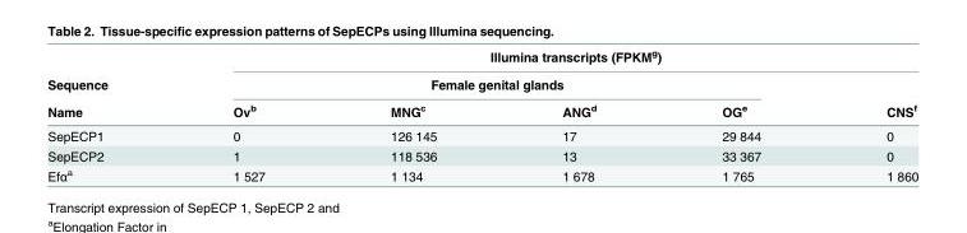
<table><thead><tr><td rowspan="3">Sequence Name</td><td colspan="5">Illumina transcripts (FPKM<sup>g</sup>)</td></tr><tr><td colspan="4">Female genital glands</td><td rowspan="2">CNS<sup>f</sup></td></tr><tr><td>Ov<sup>b</sup></td><td>MNG<sup>c</sup></td><td>ANG<sup>d</sup></td><td>OG<sup>e</sup></td></tr></thead><tbody><tr><td>SepECP1</td><td>0</td><td>126 145</td><td>17</td><td>29 844</td><td>0</td></tr><tr><td>SepECP2</td><td>1</td><td>118 536</td><td>13</td><td>33 367</td><td>0</td></tr><tr><td>Efα<sup>a</sup></td><td>1 527</td><td>1 134</td><td>1 678</td><td>1 765</td><td>1 860</td></tr></tbody></table>